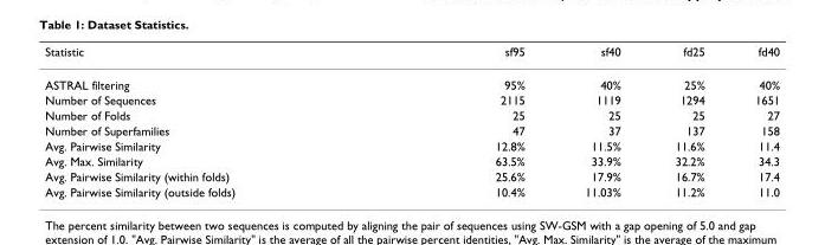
<table><thead><tr><td>Statistic</td><td>sf95</td><td>sf40</td><td>fd25</td><td>fd40</td></tr></thead><tbody><tr><td>ASTRAL filtering</td><td>95%</td><td>40%</td><td>25%</td><td>40%</td></tr><tr><td>Number of Sequences</td><td>2115</td><td>1119</td><td>1294</td><td>1651</td></tr><tr><td>Number of Folds</td><td>25</td><td>25</td><td>25</td><td>27</td></tr><tr><td>Number of Superfamilies</td><td>47</td><td>37</td><td>137</td><td>158</td></tr><tr><td>Avg. Pairwise Similarity</td><td>12.8%</td><td>11.5%</td><td>11.6%</td><td>11.4</td></tr><tr><td>Avg. Max. Similarity</td><td>63.5%</td><td>33.9%</td><td>32.2%</td><td>34.3</td></tr><tr><td>Avg. Pairwise Similarity (within folds)</td><td>25.6%</td><td>17.9%</td><td>16.7%</td><td>17.4</td></tr><tr><td>Avg. Pairwise Similarity (outside folds)</td><td>10.4%</td><td>11.03%</td><td>11.2%</td><td>11.0</td></tr></tbody></table>